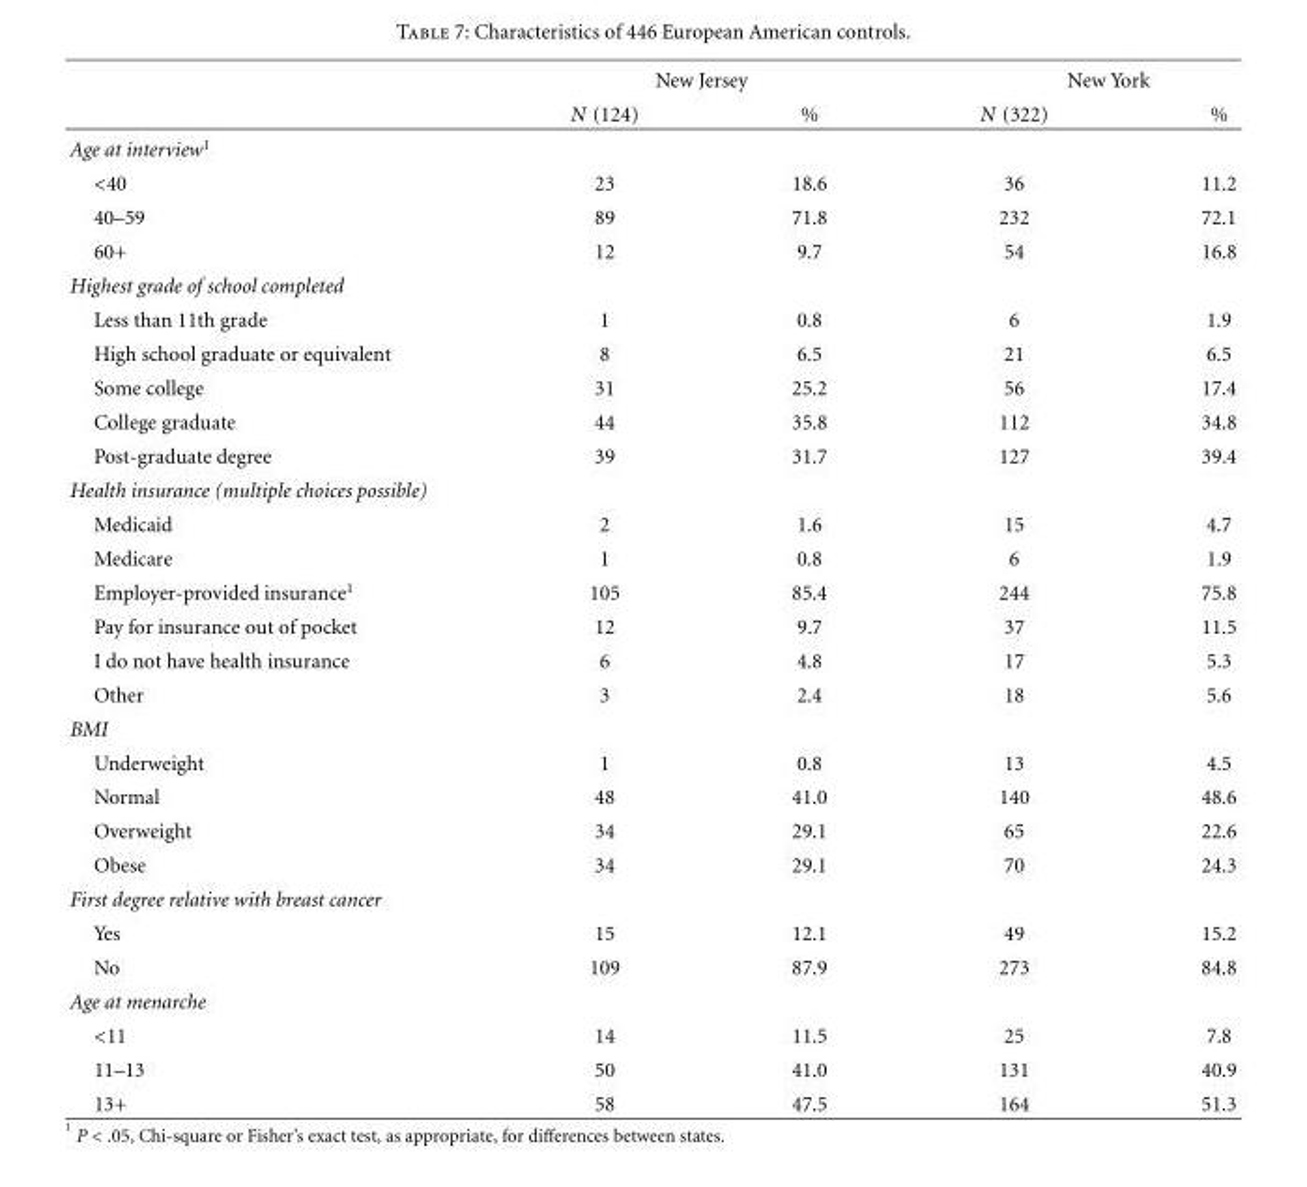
<table><thead><tr><td rowspan="2"></td><td colspan="2">New Jersey</td><td colspan="2">New York</td></tr><tr><td>N (124)</td><td>%</td><td>N (322)</td><td>%</td></tr></thead><tbody><tr><td colspan="5">Age at interview<sup>1</sup></td></tr><tr><td>&lt;40</td><td>23</td><td>18.6</td><td>36</td><td>11.2</td></tr><tr><td>40–59</td><td>89</td><td>71.8</td><td>232</td><td>72.1</td></tr><tr><td>60+</td><td>12</td><td>9.7</td><td>54</td><td>16.8</td></tr><tr><td colspan="5">Highest grade of school completed</td></tr><tr><td>Less than 11th grade</td><td>1</td><td>0.8</td><td>6</td><td>1.9</td></tr><tr><td>High school graduate or equivalent</td><td>8</td><td>6.5</td><td>21</td><td>6.5</td></tr><tr><td>Some college</td><td>31</td><td>25.2</td><td>56</td><td>17.4</td></tr><tr><td>College graduate</td><td>44</td><td>35.8</td><td>112</td><td>34.8</td></tr><tr><td>Post-graduate degree</td><td>39</td><td>31.7</td><td>127</td><td>39.4</td></tr><tr><td colspan="5">Health insurance (multiple choices possible)</td></tr><tr><td>Medicaid</td><td>2</td><td>1.6</td><td>15</td><td>4.7</td></tr><tr><td>Medicare</td><td>1</td><td>0.8</td><td>6</td><td>1.9</td></tr><tr><td>Employer-provided insurance<sup>1</sup></td><td>105</td><td>85.4</td><td>244</td><td>75.8</td></tr><tr><td>Pay for insurance out of pocket</td><td>12</td><td>9.7</td><td>37</td><td>11.5</td></tr><tr><td>I do not have health insurance</td><td>6</td><td>4.8</td><td>17</td><td>5.3</td></tr><tr><td>Other</td><td>3</td><td>2.4</td><td>18</td><td>5.6</td></tr><tr><td colspan="5">BMI</td></tr><tr><td>Underweight</td><td>1</td><td>0.8</td><td>13</td><td>4.5</td></tr><tr><td>Normal</td><td>48</td><td>41.0</td><td>140</td><td>48.6</td></tr><tr><td>Overweight</td><td>34</td><td>29.1</td><td>65</td><td>22.6</td></tr><tr><td>Obese</td><td>34</td><td>29.1</td><td>70</td><td>24.3</td></tr><tr><td colspan="5">First degree relative with breast cancer</td></tr><tr><td>Yes</td><td>15</td><td>12.1</td><td>49</td><td>15.2</td></tr><tr><td>No</td><td>109</td><td>87.9</td><td>273</td><td>84.8</td></tr><tr><td colspan="5">Age at menarche</td></tr><tr><td>&lt;11</td><td>14</td><td>11.5</td><td>25</td><td>7.8</td></tr><tr><td>11–13</td><td>50</td><td>41.0</td><td>131</td><td>40.9</td></tr><tr><td>13+</td><td>58</td><td>47.5</td><td>164</td><td>51.3</td></tr></tbody></table>